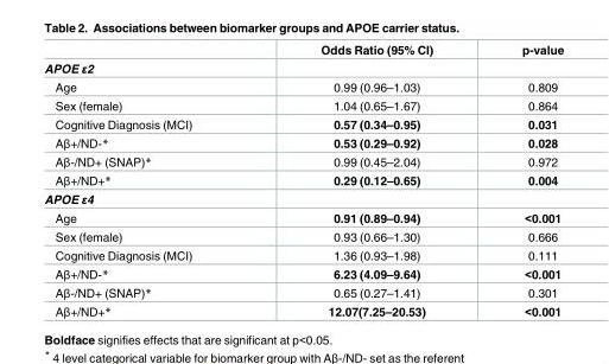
<table><thead><tr><td></td><td>Odds Ratio (95% CI)</td><td>p-value</td></tr></thead><tbody><tr><td colspan="3">APOE ε2</td></tr><tr><td>Age</td><td>0.99 (0.96–1.03)</td><td>0.809</td></tr><tr><td>Sex (female)</td><td>1.04 (0.65–1.67)</td><td>0.864</td></tr><tr><td>Cognitive Diagnosis (MCI)</td><td>0.57 (0.34–0.95)</td><td>0.031</td></tr><tr><td>Aβ+/ND-*</td><td>0.53 (0.29–0.92)</td><td>0.028</td></tr><tr><td>Aβ-/ND+ (SNAP)*</td><td>0.99 (0.45–2.04)</td><td>0.972</td></tr><tr><td>Aβ+/ND+*</td><td>0.29 (0.12–0.65)</td><td>0.004</td></tr><tr><td colspan="3">APOE ε4</td></tr><tr><td>Age</td><td>0.91 (0.89–0.94)</td><td>&lt;0.001</td></tr><tr><td>Sex (female)</td><td>0.93 (0.66–1.30)</td><td>0.666</td></tr><tr><td>Cognitive Diagnosis (MCI)</td><td>1.36 (0.93–1.98)</td><td>0.111</td></tr><tr><td>Aβ+/ND-*</td><td>6.23 (4.09–9.64)</td><td>&lt;0.001</td></tr><tr><td>Aβ-/ND+ (SNAP)*</td><td>0.65 (0.27–1.41)</td><td>0.301</td></tr><tr><td>Aβ+/ND+*</td><td>12.07(7.25–20.53)</td><td>&lt;0.001</td></tr></tbody></table>